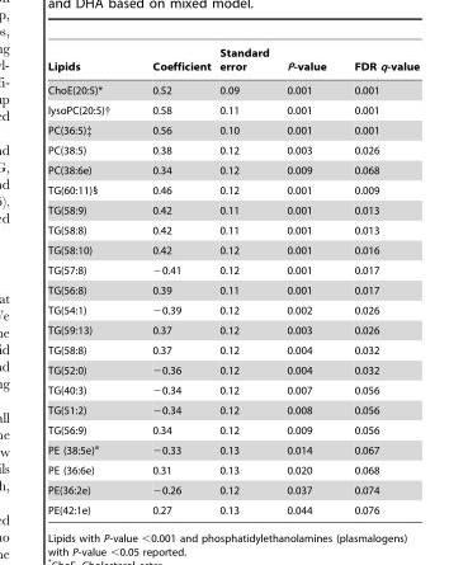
<table><thead><tr><td>Lipids</td><td>Coefficient</td><td>Standard error</td><td>P-value</td><td>FDR q-value</td></tr></thead><tbody><tr><td>ChoE(20:5)*</td><td>0.52</td><td>0.09</td><td>0.001</td><td>0.001</td></tr><tr><td>lysoPC(20:5)†</td><td>0.58</td><td>0.11</td><td>0.001</td><td>0.001</td></tr><tr><td>PC(36:5)‡</td><td>0.56</td><td>0.10</td><td>0.001</td><td>0.001</td></tr><tr><td>PC(38:5)</td><td>0.38</td><td>0.12</td><td>0.003</td><td>0.026</td></tr><tr><td>PC(38:6e)</td><td>0.34</td><td>0.12</td><td>0.009</td><td>0.068</td></tr><tr><td>TG(60:11)§</td><td>0.46</td><td>0.12</td><td>0.001</td><td>0.009</td></tr><tr><td>TG(58:9)</td><td>0.42</td><td>0.11</td><td>0.001</td><td>0.013</td></tr><tr><td>TG(58:8)</td><td>0.42</td><td>0.11</td><td>0.001</td><td>0.013</td></tr><tr><td>TG(58:10)</td><td>0.42</td><td>0.12</td><td>0.001</td><td>0.016</td></tr><tr><td>TG(57:8)</td><td>−0.41</td><td>0.12</td><td>0.001</td><td>0.017</td></tr><tr><td>TG(56:8)</td><td>0.39</td><td>0.11</td><td>0.001</td><td>0.017</td></tr><tr><td>TG(54:1)</td><td>−0.39</td><td>0.12</td><td>0.002</td><td>0.026</td></tr><tr><td>TG(59:13)</td><td>0.37</td><td>0.12</td><td>0.003</td><td>0.026</td></tr><tr><td>TG(58:8)</td><td>0.37</td><td>0.12</td><td>0.004</td><td>0.032</td></tr><tr><td>TG(52:0)</td><td>−0.36</td><td>0.12</td><td>0.004</td><td>0.032</td></tr><tr><td>TG(40:3)</td><td>−0.34</td><td>0.12</td><td>0.007</td><td>0.056</td></tr><tr><td>TG(51:2)</td><td>−0.34</td><td>0.12</td><td>0.008</td><td>0.056</td></tr><tr><td>TG(56:9)</td><td>0.34</td><td>0.12</td><td>0.009</td><td>0.056</td></tr><tr><td>PE (38:5e)<sup>a</sup></td><td>−0.33</td><td>0.13</td><td>0.014</td><td>0.067</td></tr><tr><td>PE (36:6e)</td><td>0.31</td><td>0.13</td><td>0.020</td><td>0.068</td></tr><tr><td>PE(36:2e)</td><td>−0.26</td><td>0.12</td><td>0.037</td><td>0.074</td></tr><tr><td>PE(42:1e)</td><td>0.27</td><td>0.13</td><td>0.044</td><td>0.076</td></tr></tbody></table>